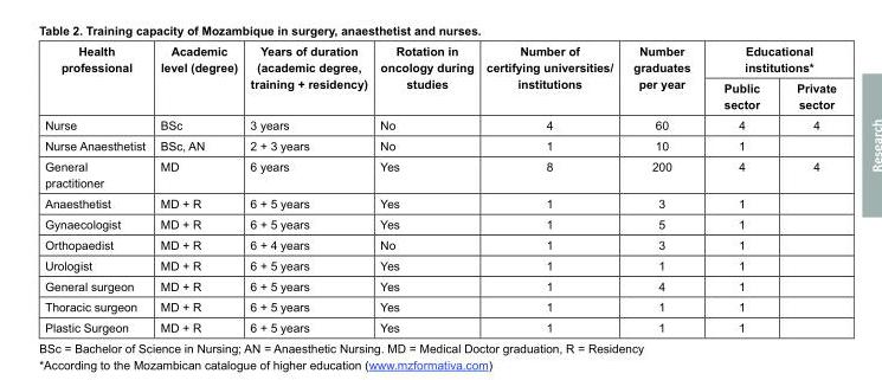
<table><thead><tr><td rowspan="2">Health professional</td><td rowspan="2">Academic level (degree)</td><td rowspan="2">Years of duration (academic degree, training + residency)</td><td rowspan="2">Rotation in oncology during studies</td><td rowspan="2">Number of certifying universities/ institutions</td><td rowspan="2">Number graduates per year</td><td colspan="2">Educational institutions*</td></tr><tr><td>Public sector</td><td>Private sector</td></tr></thead><tbody><tr><td>Nurse</td><td>BSc</td><td>3 years</td><td>No</td><td>4</td><td>60</td><td>4</td><td>4</td></tr><tr><td>Nurse Anaesthetist</td><td>BSc, AN</td><td>2 + 3 years</td><td>No</td><td>1</td><td>10</td><td>1</td><td></td></tr><tr><td>General practitioner</td><td>MD</td><td>6 years</td><td>Yes</td><td>8</td><td>200</td><td>4</td><td>4</td></tr><tr><td>Anaesthetist</td><td>MD + R</td><td>6 + 5 years</td><td>Yes</td><td>1</td><td>3</td><td>1</td><td></td></tr><tr><td>Gynaecologist</td><td>MD + R</td><td>6 + 5 years</td><td>Yes</td><td>1</td><td>5</td><td>1</td><td></td></tr><tr><td>Orthopaedist</td><td>MD + R</td><td>6 + 4 years</td><td>No</td><td>1</td><td>3</td><td>1</td><td></td></tr><tr><td>Urologist</td><td>MD + R</td><td>6 + 5 years</td><td>Yes</td><td>1</td><td>1</td><td>1</td><td></td></tr><tr><td>General surgeon</td><td>MD + R</td><td>6 + 5 years</td><td>Yes</td><td>1</td><td>4</td><td>1</td><td></td></tr><tr><td>Thoracic surgeon</td><td>MD + R</td><td>6 + 5 years</td><td>Yes</td><td>1</td><td>1</td><td>1</td><td></td></tr><tr><td>Plastic Surgeon</td><td>MD + R</td><td>6 + 5 years</td><td>Yes</td><td>1</td><td>1</td><td>1</td><td></td></tr></tbody></table>